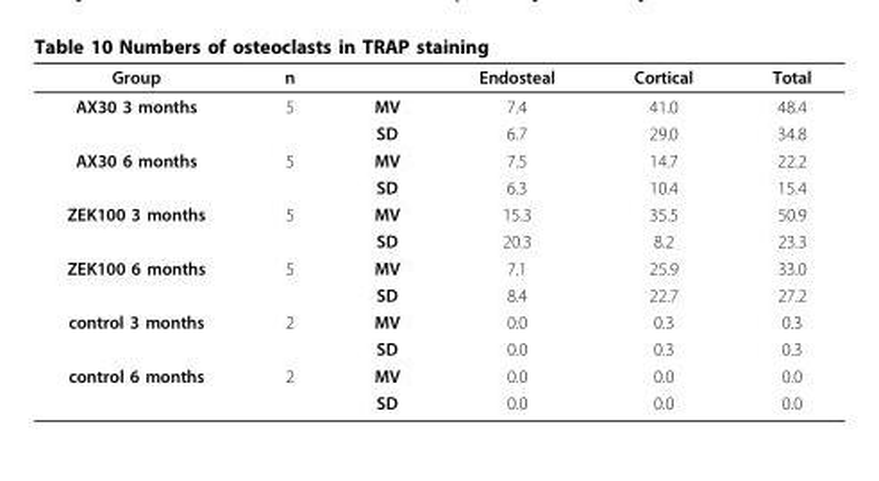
<table><thead><tr><td>Group</td><td>n</td><td></td><td>Endosteal</td><td>Cortical</td><td>Total</td></tr></thead><tbody><tr><td rowspan="2">AX30 3 months</td><td>5</td><td>MV</td><td>7.4</td><td>41.0</td><td>48.4</td></tr><tr><td></td><td>SD</td><td>6.7</td><td>29.0</td><td>34.8</td></tr><tr><td rowspan="2">AX30 6 months</td><td>5</td><td>MV</td><td>7.5</td><td>14.7</td><td>22.2</td></tr><tr><td></td><td>SD</td><td>6.3</td><td>10.4</td><td>15.4</td></tr><tr><td rowspan="2">ZEK100 3 months</td><td>5</td><td>MV</td><td>15.3</td><td>35.5</td><td>50.9</td></tr><tr><td></td><td>SD</td><td>20.3</td><td>8.2</td><td>23.3</td></tr><tr><td rowspan="2">ZEK100 6 months</td><td>5</td><td>MV</td><td>7.1</td><td>25.9</td><td>33.0</td></tr><tr><td></td><td>SD</td><td>8.4</td><td>22.7</td><td>27.2</td></tr><tr><td rowspan="2">control 3 months</td><td>2</td><td>MV</td><td>0.0</td><td>0.3</td><td>0.3</td></tr><tr><td></td><td>SD</td><td>0.0</td><td>0.3</td><td>0.3</td></tr><tr><td rowspan="2">control 6 months</td><td>2</td><td>MV</td><td>0.0</td><td>0.0</td><td>0.0</td></tr><tr><td></td><td>SD</td><td>0.0</td><td>0.0</td><td>0.0</td></tr></tbody></table>